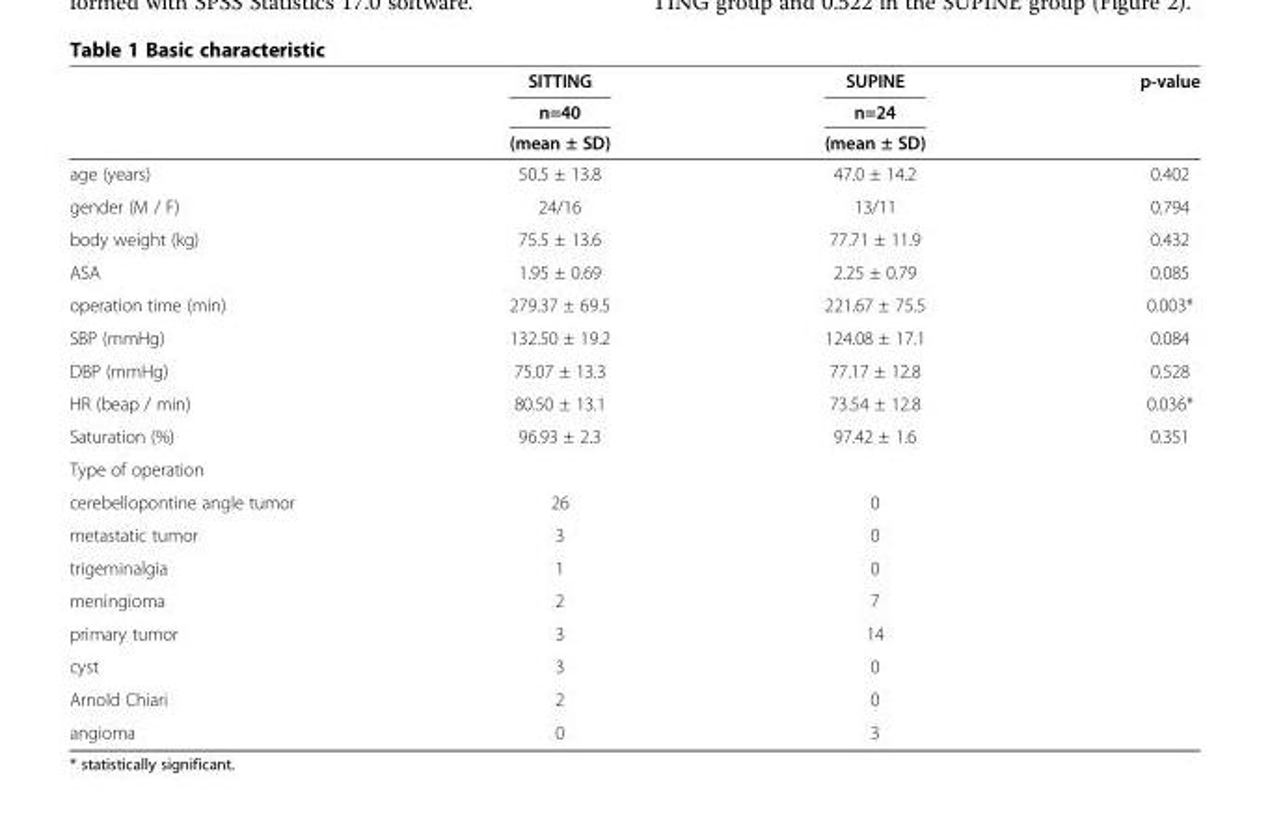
<table><thead><tr><td rowspan="3"></td><td rowspan="3">SITTING n=40 (mean ± SD)</td><td rowspan="3">SUPINE n=24 (mean ± SD)</td><td rowspan="3">p-value</td></tr><tr></tr><tr></tr></thead><tbody><tr><td>age (years)</td><td>50.5 ± 13.8</td><td>47.0 ± 14.2</td><td>0.402</td></tr><tr><td>gender (M / F)</td><td>24/16</td><td>13/11</td><td>0.794</td></tr><tr><td>body weight (kg)</td><td>75.5 ± 13.6</td><td>77.71 ± 11.9</td><td>0.432</td></tr><tr><td>ASA</td><td>1.95 ± 0.69</td><td>2.25 ± 0.79</td><td>0.085</td></tr><tr><td>operation time (min)</td><td>279.37 ± 69.5</td><td>221.67 ± 75.5</td><td>0.003*</td></tr><tr><td>SBP (mmHg)</td><td>132.50 ± 19.2</td><td>124.08 ± 17.1</td><td>0.084</td></tr><tr><td>DBP (mmHg)</td><td>75.07 ± 13.3</td><td>77.17 ± 12.8</td><td>0.528</td></tr><tr><td>HR (beap / min)</td><td>80.50 ± 13.1</td><td>73.54 ± 12.8</td><td>0.036*</td></tr><tr><td>Saturation (%)</td><td>96.93 ± 2.3</td><td>97.42 ± 1.6</td><td>0.351</td></tr><tr><td colspan="4">Type of operation</td></tr><tr><td>cerebellopontine angle tumor</td><td>26</td><td>0</td><td></td></tr><tr><td>metastatic tumor</td><td>3</td><td>0</td><td></td></tr><tr><td>trigeminalgia</td><td>1</td><td>0</td><td></td></tr><tr><td>meningioma</td><td>2</td><td>7</td><td></td></tr><tr><td>primary tumor</td><td>3</td><td>14</td><td></td></tr><tr><td>cyst</td><td>3</td><td>0</td><td></td></tr><tr><td>Arnold Chiari</td><td>2</td><td>0</td><td></td></tr><tr><td>angioma</td><td>0</td><td>3</td><td></td></tr></tbody></table>